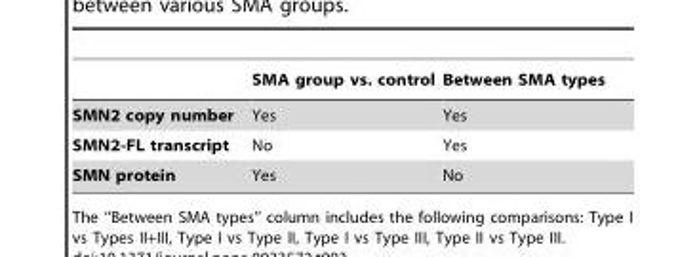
<table><thead><tr><td></td><td>SMA group vs. control</td><td>Between SMA types</td></tr></thead><tbody><tr><td>SMN2 copy number</td><td>Yes</td><td>Yes</td></tr><tr><td>SMN2-FL transcript</td><td>No</td><td>Yes</td></tr><tr><td>SMN protein</td><td>Yes</td><td>No</td></tr></tbody></table>